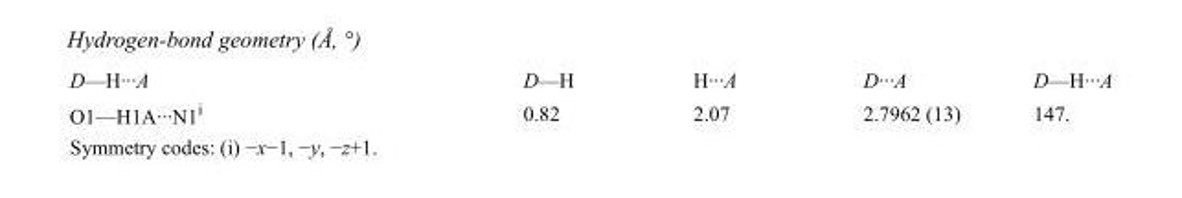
<table><tbody><tr><td>D—H···A</td><td>D—H</td><td>H···A</td><td>D···A</td><td>D—H···A</td></tr><tr><td>O1—H1A···N1<sup>i</sup></td><td>0.82</td><td>2.07</td><td>2.7962 (13)</td><td>147.</td></tr></tbody></table>